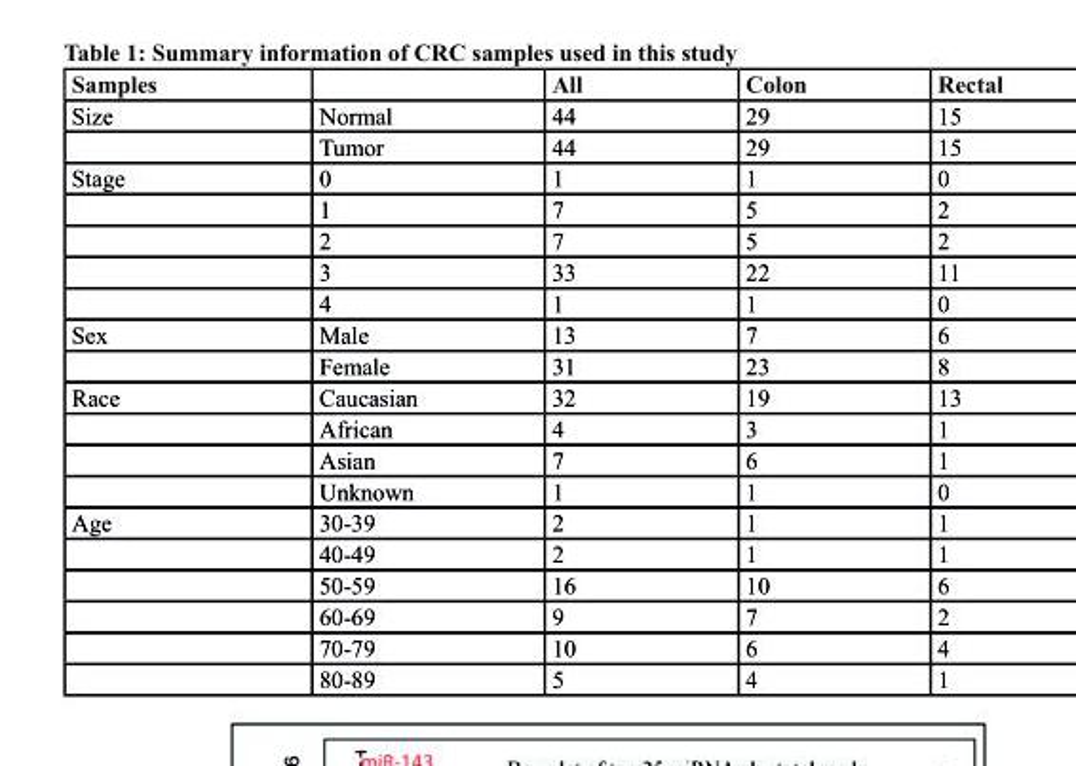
<table><thead><tr><td>samples</td><td></td><td>All</td><td>colon</td><td>rectal</td></tr></thead><tbody><tr><td rowspan="2">Size</td><td>Normal</td><td>44</td><td>29</td><td>15</td></tr><tr><td>Tumor</td><td>44</td><td>29</td><td>15</td></tr><tr><td rowspan="5">Stage</td><td>0</td><td>1</td><td>1</td><td>0</td></tr><tr><td>1</td><td>7</td><td>5</td><td>2</td></tr><tr><td>2</td><td>7</td><td>5</td><td>2</td></tr><tr><td>3</td><td>33</td><td>22</td><td>11</td></tr><tr><td>4</td><td>1</td><td>1</td><td>0</td></tr><tr><td rowspan="2">Sex</td><td>Male</td><td>13</td><td>7</td><td>6</td></tr><tr><td>Female</td><td>31</td><td>23</td><td>8</td></tr><tr><td rowspan="4">Race</td><td>Caucasian</td><td>32</td><td>19</td><td>13</td></tr><tr><td>African</td><td>4</td><td>3</td><td>1</td></tr><tr><td>Asian</td><td>7</td><td>6</td><td>1</td></tr><tr><td>Unknown</td><td>1</td><td>1</td><td>0</td></tr><tr><td rowspan="6">Age</td><td>30-39</td><td>2</td><td>1</td><td>1</td></tr><tr><td>40-49</td><td>2</td><td>1</td><td>1</td></tr><tr><td>50-59</td><td>16</td><td>10</td><td>6</td></tr><tr><td>60-69</td><td>9</td><td>7</td><td>2</td></tr><tr><td>70-79</td><td>10</td><td>6</td><td>4</td></tr><tr><td>80-89</td><td>5</td><td>4</td><td>1</td></tr></tbody></table>